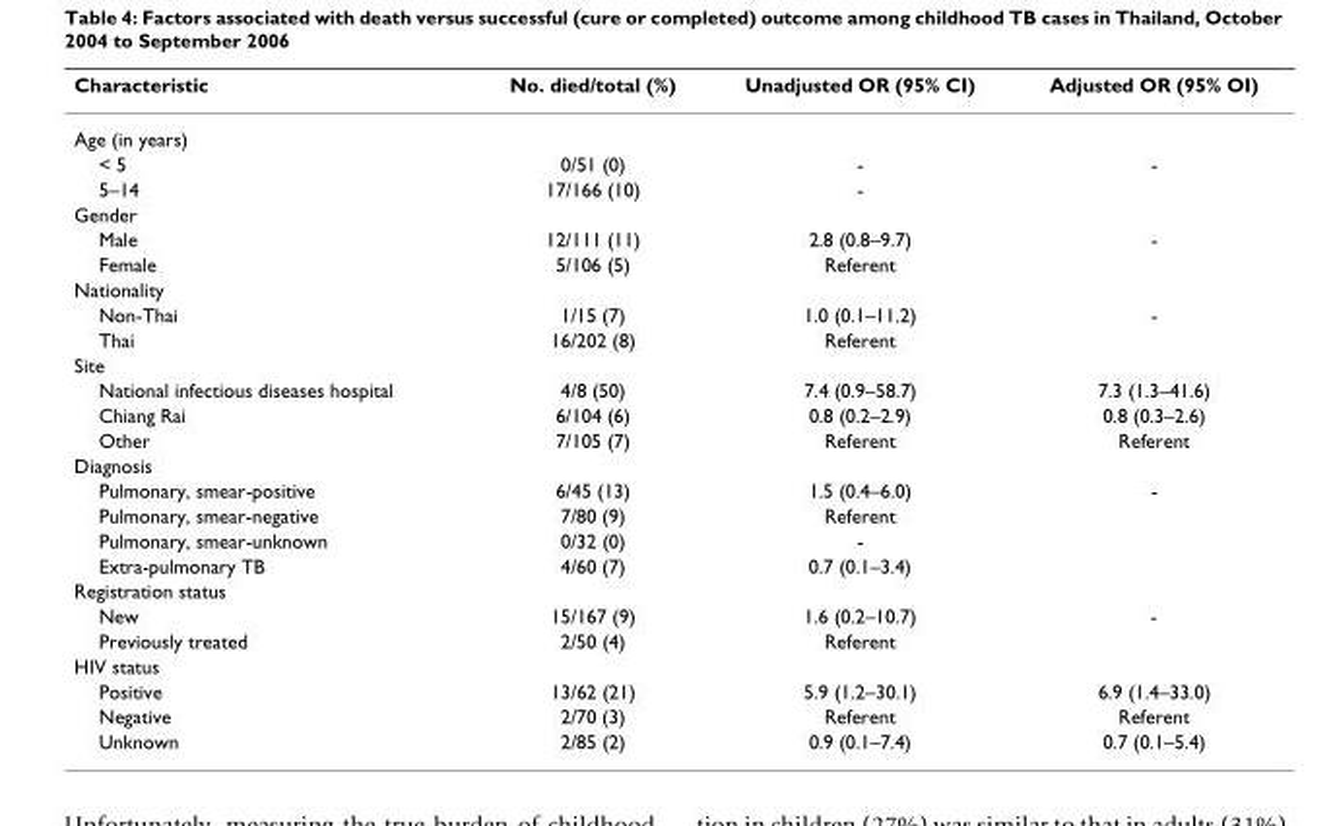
<table><thead><tr><td>Characteristic</td><td>No. died/total (%)</td><td>Unadjusted OR (95% CI)</td><td>Adjusted OR (95% OI)</td></tr></thead><tbody><tr><td colspan="4">Age (in years)</td></tr><tr><td>&lt; 5</td><td>0/51 (0)</td><td>-</td><td>-</td></tr><tr><td>5–14</td><td>17/166 (10)</td><td>-</td><td></td></tr><tr><td colspan="4">Gender</td></tr><tr><td>Male</td><td>12/111 (11)</td><td>2.8 (0.8–9.7)</td><td>-</td></tr><tr><td>Female</td><td>5/106 (5)</td><td>Referent</td><td></td></tr><tr><td colspan="4">Nationality</td></tr><tr><td>Non-Thai</td><td>1/15 (7)</td><td>1.0 (0.1–11.2)</td><td>-</td></tr><tr><td>Thai</td><td>16/202 (8)</td><td>Referent</td><td></td></tr><tr><td colspan="4">Site</td></tr><tr><td>National infectious diseases hospital</td><td>4/8 (50)</td><td>7.4 (0.9–58.7)</td><td>7.3 (1.3–41.6)</td></tr><tr><td>Chiang Rai</td><td>6/104 (6)</td><td>0.8 (0.2–2.9)</td><td>0.8 (0.3–2.6)</td></tr><tr><td>Other</td><td>7/105 (7)</td><td>Referent</td><td>Referent</td></tr><tr><td colspan="4">Diagnosis</td></tr><tr><td>Pulmonary, smear-positive</td><td>6/45 (13)</td><td>1.5 (0.4–6.0)</td><td>-</td></tr><tr><td>Pulmonary, smear-negative</td><td>7/80 (9)</td><td>Referent</td><td></td></tr><tr><td>Pulmonary, smear-unknown</td><td>0/32 (0)</td><td>-</td><td></td></tr><tr><td>Extra-pulmonary TB</td><td>4/60 (7)</td><td>0.7 (0.1–3.4)</td><td></td></tr><tr><td colspan="4">Registration status</td></tr><tr><td>New</td><td>15/167 (9)</td><td>1.6 (0.2–10.7)</td><td>-</td></tr><tr><td>Previously treated</td><td>2/50 (4)</td><td>Referent</td><td></td></tr><tr><td colspan="4">HIV status</td></tr><tr><td>Positive</td><td>13/62 (21)</td><td>5.9 (1.2–30.1)</td><td>6.9 (1.4–33.0)</td></tr><tr><td>Negative</td><td>2/70 (3)</td><td>Referent</td><td>Referent</td></tr><tr><td>Unknown</td><td>2/85 (2)</td><td>0.9 (0.1–7.4)</td><td>0.7 (0.1–5.4)</td></tr></tbody></table>